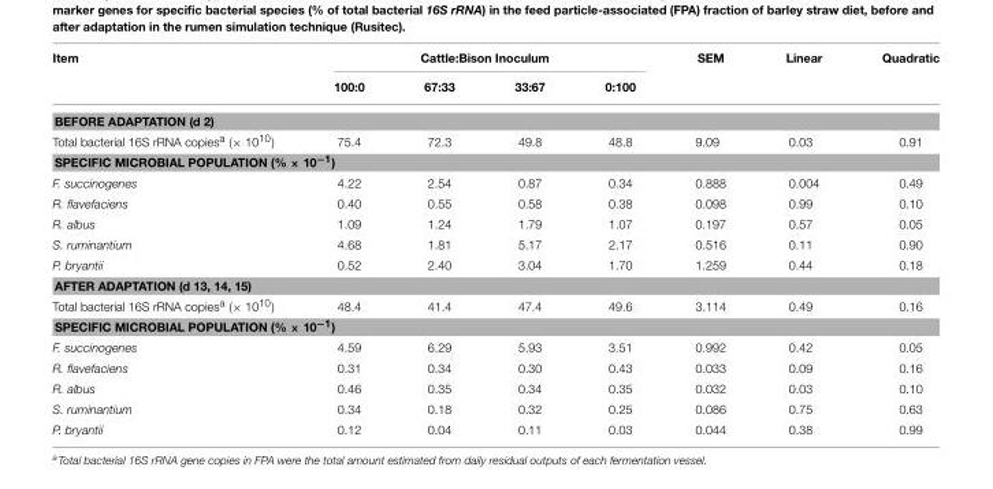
<table><thead><tr><td rowspan="2">Item</td><td colspan="4">Cattle:Bison Inoculum</td><td rowspan="2">SEM</td><td rowspan="2">Linear</td><td rowspan="2">Quadratic</td></tr><tr><td>100:0</td><td>67:33</td><td>33:67</td><td>0:100</td></tr></thead><tbody><tr><td colspan="8">BEFORE ADAPTATION (d 2)</td></tr><tr><td>Total bacterial 16S rRNA copies<sup>a</sup> (× 10<sup>10</sup>)</td><td>75.4</td><td>72.3</td><td>49.8</td><td>48.8</td><td>9.09</td><td>0.03</td><td>0.91</td></tr><tr><td colspan="8">SPECIFIC MICROBIAL POPULATION (% × 10<sup>−1</sup>)</td></tr><tr><td>F. succinogenes</td><td>4.22</td><td>2.54</td><td>0.87</td><td>0.34</td><td>0.888</td><td>0.004</td><td>0.49</td></tr><tr><td>R. flavefaciens</td><td>0.40</td><td>0.55</td><td>0.58</td><td>0.38</td><td>0.098</td><td>0.99</td><td>0.10</td></tr><tr><td>R. albus</td><td>1.09</td><td>1.24</td><td>1.79</td><td>1.07</td><td>0.197</td><td>0.57</td><td>0.05</td></tr><tr><td>S. ruminantium</td><td>4.68</td><td>1.81</td><td>5.17</td><td>2.17</td><td>0.516</td><td>0.11</td><td>0.90</td></tr><tr><td>P. bryantii</td><td>0.52</td><td>2.40</td><td>3.04</td><td>1.70</td><td>1.259</td><td>0.44</td><td>0.18</td></tr><tr><td colspan="8">AFTER ADAPTATION (d 13, 14, 15)</td></tr><tr><td>Total bacterial 16S rRNA copies<sup>a</sup> (× 10<sup>10</sup>)</td><td>48.4</td><td>41.4</td><td>47.4</td><td>49.6</td><td>3.114</td><td>0.49</td><td>0.16</td></tr><tr><td colspan="8">SPECIFIC MICROBIAL POPULATION (% × 10<sup>−1</sup>)</td></tr><tr><td>F. succinogenes</td><td>4.59</td><td>6.29</td><td>5.93</td><td>3.51</td><td>0.992</td><td>0.42</td><td>0.05</td></tr><tr><td>R. flavefaciens</td><td>0.31</td><td>0.34</td><td>0.30</td><td>0.43</td><td>0.033</td><td>0.09</td><td>0.16</td></tr><tr><td>R. albus</td><td>0.46</td><td>0.35</td><td>0.34</td><td>0.35</td><td>0.032</td><td>0.03</td><td>0.10</td></tr><tr><td>S. ruminantium</td><td>0.34</td><td>0.18</td><td>0.32</td><td>0.25</td><td>0.086</td><td>0.75</td><td>0.63</td></tr><tr><td>P. bryantii</td><td>0.12</td><td>0.04</td><td>0.11</td><td>0.03</td><td>0.044</td><td>0.38</td><td>0.99</td></tr></tbody></table>